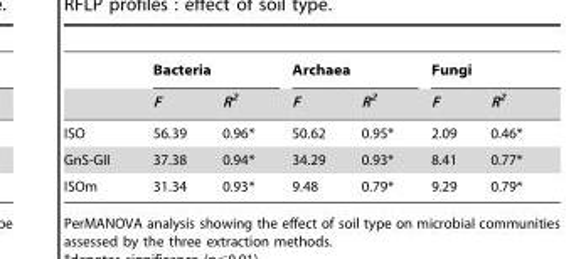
<table><thead><tr><td rowspan="2"></td><td colspan="2">Bacteria</td><td colspan="2">Archaea</td><td colspan="2">Fungi</td></tr><tr><td>F</td><td>R<sup>2</sup></td><td>F</td><td>R<sup>2</sup></td><td>F</td><td>R<sup>2</sup></td></tr></thead><tbody><tr><td>ISO</td><td>56.39</td><td>0.96*</td><td>50.62</td><td>0.95*</td><td>2.09</td><td>0.46*</td></tr><tr><td>GnS-GII</td><td>37.38</td><td>0.94*</td><td>34.29</td><td>0.93*</td><td>8.41</td><td>0.77*</td></tr><tr><td>ISOm</td><td>31.34</td><td>0.93*</td><td>9.48</td><td>0.79*</td><td>9.29</td><td>0.79*</td></tr></tbody></table>